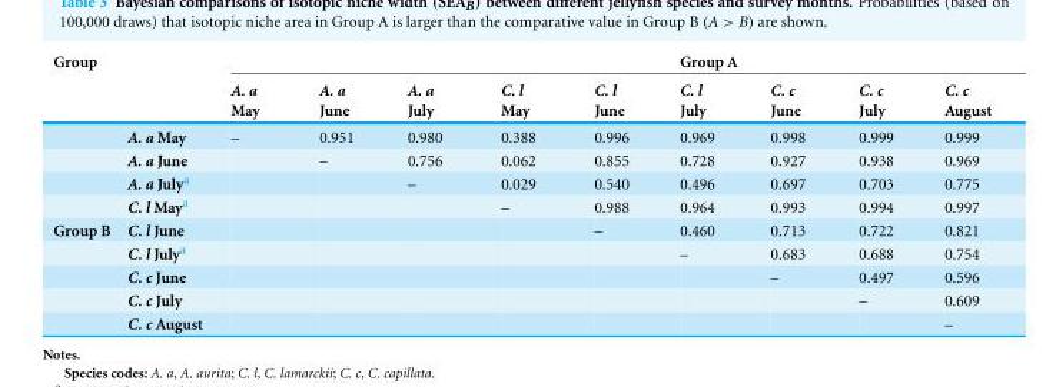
<table><thead><tr><td rowspan="2">Group</td><td rowspan="2"></td><td rowspan="2">A. a May</td><td rowspan="2">A. a June</td><td rowspan="2">A. a July</td><td rowspan="2">C. l May</td><td rowspan="2">C. l June</td><td rowspan="2">Group A C. l July</td><td rowspan="2">C. c June</td><td rowspan="2">C. c July</td><td rowspan="2">C. c August</td></tr><tr></tr></thead><tbody><tr><td></td><td>A. a May</td><td>–</td><td>0.951</td><td>0.980</td><td>0.388</td><td>0.996</td><td>0.969</td><td>0.998</td><td>0.999</td><td>0.999</td></tr><tr><td></td><td>A. a June</td><td></td><td>–</td><td>0.756</td><td>0.062</td><td>0.855</td><td>0.728</td><td>0.927</td><td>0.938</td><td>0.969</td></tr><tr><td></td><td>A. a July<sup>a</sup></td><td></td><td></td><td>–</td><td>0.029</td><td>0.540</td><td>0.496</td><td>0.697</td><td>0.703</td><td>0.775</td></tr><tr><td></td><td>C. l May<sup>a</sup></td><td></td><td></td><td></td><td>–</td><td>0.988</td><td>0.964</td><td>0.993</td><td>0.994</td><td>0.997</td></tr><tr><td rowspan="5">Group B</td><td>C. l June</td><td></td><td></td><td></td><td></td><td>–</td><td>0.460</td><td>0.713</td><td>0.722</td><td>0.821</td></tr><tr><td>C. l July<sup>a</sup></td><td></td><td></td><td></td><td></td><td></td><td>–</td><td>0.683</td><td>0.688</td><td>0.754</td></tr><tr><td>C. c June</td><td></td><td></td><td></td><td></td><td></td><td></td><td>–</td><td>0.497</td><td>0.596</td></tr><tr><td>C. c July</td><td></td><td></td><td></td><td></td><td></td><td></td><td></td><td>–</td><td>0.609</td></tr><tr><td>C. c August</td><td></td><td></td><td></td><td></td><td></td><td></td><td></td><td></td><td>–</td></tr></tbody></table>